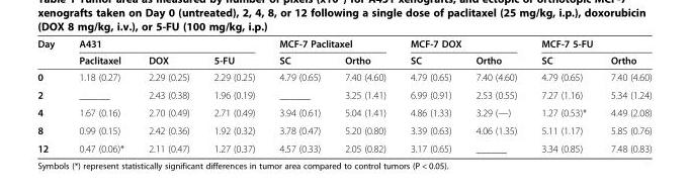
<table><thead><tr><td rowspan="2">Day</td><td colspan="3">A431</td><td colspan="2">MCF-7 Paclitaxel</td><td colspan="2">MCF-7 DOX</td><td colspan="2">MCF-7 5-FU</td></tr><tr><td>Paclitaxel</td><td>DOX</td><td>5-FU</td><td>SC</td><td>Ortho</td><td>SC</td><td>Ortho</td><td>SC</td><td>Ortho</td></tr></thead><tbody><tr><td>0</td><td>1.18 (0.27)</td><td>2.29 (0.25)</td><td>2.29 (0.25)</td><td>4.79 (0.65)</td><td>7.40 (4.60)</td><td>4.79 (0.65)</td><td>7.40 (4.60)</td><td>4.79 (0.65)</td><td>7.40 (4.60)</td></tr><tr><td>2</td><td>______</td><td>2.43 (0.38)</td><td>1.96 (0.19)</td><td>______</td><td>3.25 (1.41)</td><td>6.99 (0.91)</td><td>2.53 (0.55)</td><td>7.27 (1.16)</td><td>5.34 (1.24)</td></tr><tr><td>4</td><td>1.67 (0.16)</td><td>2.70 (0.49)</td><td>2.71 (0.49)</td><td>3.94 (0.61)</td><td>5.04 (1.41)</td><td>4.86 (1.33)</td><td>3.29 (—)</td><td>1.27 (0.53)*</td><td>4.49 (2.08)</td></tr><tr><td>8</td><td>0.99 (0.15)</td><td>2.42 (0.36)</td><td>1.92 (0.32)</td><td>3.78 (0.47)</td><td>5.20 (0.80)</td><td>3.39 (0.63)</td><td>4.06 (1.35)</td><td>5.11 (1.17)</td><td>5.85 (0.76)</td></tr><tr><td>12</td><td>0.47 (0.06)*</td><td>2.11 (0.47)</td><td>1.27 (0.37)</td><td>4.57 (0.33)</td><td>2.05 (0.82)</td><td>3.17 (0.65)</td><td>______</td><td>3.34 (0.85)</td><td>7.48 (0.83)</td></tr></tbody></table>